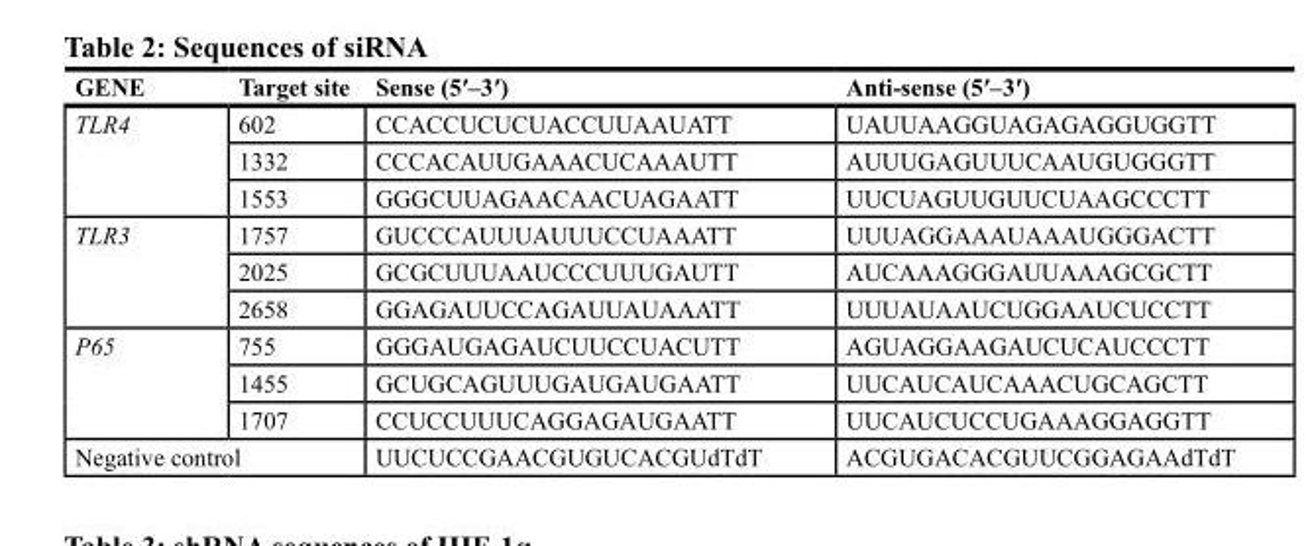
<table><thead><tr><td>GENE</td><td>Target site</td><td>Sense (5′–3′)</td><td>Anti-sense (5′–3′)</td></tr></thead><tbody><tr><td rowspan="3">TLR4</td><td>602</td><td>CCACCUCUCUACCUUAAUATT</td><td>UAUUAAGGUAGAGAGGUGGTT</td></tr><tr><td>1332</td><td>CCCACAUUGAAACUCAAAUTT</td><td>AUUUGAGUUUCAAUGUGGGTT</td></tr><tr><td>1553</td><td>GGGCUUAGAACAACUAGAATT</td><td>UUCUAGUUGUUCUAAGCCCTT</td></tr><tr><td rowspan="3">TLR3</td><td>1757</td><td>GUCCCAUUUAUUUCCUAAATT</td><td>UUUAGGAAAUAAAUGGGACTT</td></tr><tr><td>2025</td><td>GCGCUUUAAUCCCUUUGAUTT</td><td>AUCAAAGGGAUUAAAGCGCTT</td></tr><tr><td>2658</td><td>GGAGAUUCCAGAUUAUAAATT</td><td>UUUAUAAUCUGGAAUCUCCTT</td></tr><tr><td rowspan="3">P65</td><td>755</td><td>GGGAUGAGAUCUUCCUACUTT</td><td>AGUAGGAAGAUCUCAUCCCTT</td></tr><tr><td>1455</td><td>GCUGCAGUUUGAUGAUGAATT</td><td>UUCAUCAUCAAACUGCAGCTT</td></tr><tr><td>1707</td><td>CCUCCUUUCAGGAGAUGAATT</td><td>UUCAUCUCCUGAAAGGAGGTT</td></tr><tr><td colspan="2">Negative control</td><td>UUCUCCGAACGUGUCACGUdTdT</td><td>ACGUGACACGUUCGGAGAAdTdT</td></tr></tbody></table>